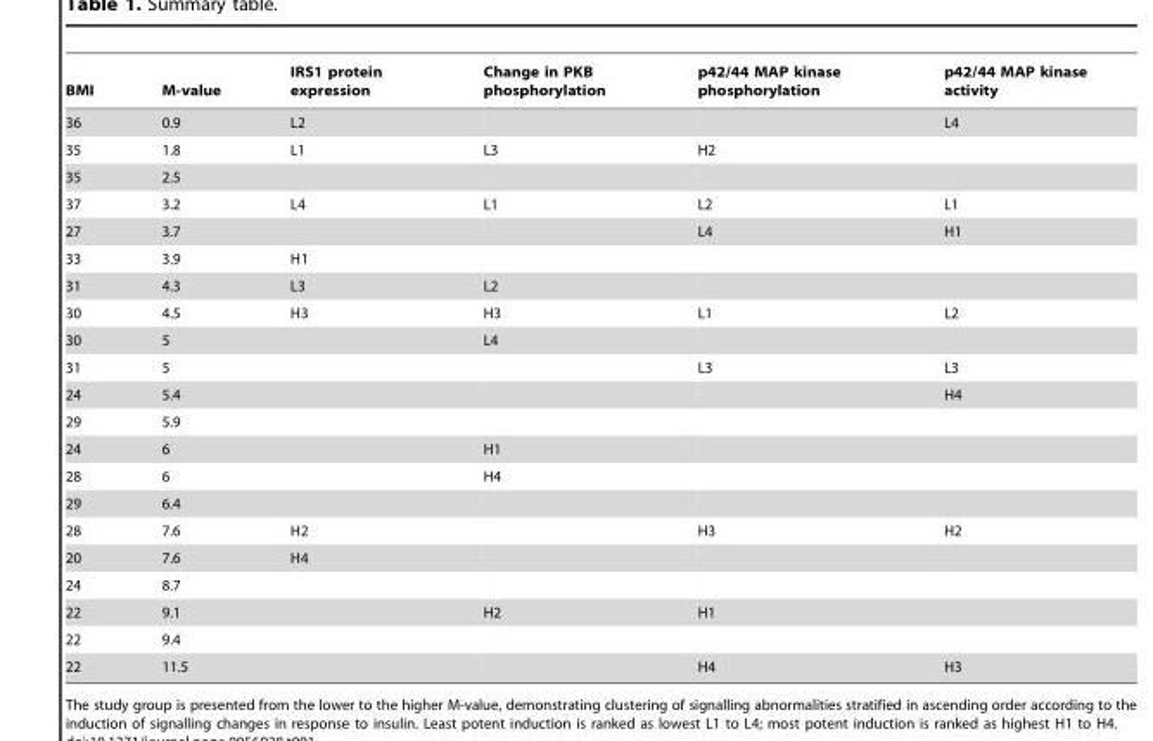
<table><thead><tr><td>BMI</td><td>M-value</td><td>IRS1 protein expression</td><td>Change in PKB phosphorylation</td><td>p42/44 MAP kinase phosphorylation</td><td>p42/44 MAP kinase activity</td></tr></thead><tbody><tr><td>36</td><td>0.9</td><td>L2</td><td></td><td></td><td>L4</td></tr><tr><td>35</td><td>1.8</td><td>L1</td><td>L3</td><td>H2</td><td></td></tr><tr><td>35</td><td>2.5</td><td></td><td></td><td></td><td></td></tr><tr><td>37</td><td>3.2</td><td>L4</td><td>L1</td><td>L2</td><td>L1</td></tr><tr><td>27</td><td>3.7</td><td></td><td></td><td>L4</td><td>H1</td></tr><tr><td>33</td><td>3.9</td><td>H1</td><td></td><td></td><td></td></tr><tr><td>31</td><td>4.3</td><td>L3</td><td>L2</td><td></td><td></td></tr><tr><td>30</td><td>4.5</td><td>H3</td><td>H3</td><td>L1</td><td>L2</td></tr><tr><td>30</td><td>5</td><td></td><td>L4</td><td></td><td></td></tr><tr><td>31</td><td>5</td><td></td><td></td><td>L3</td><td>L3</td></tr><tr><td>24</td><td>5.4</td><td></td><td></td><td></td><td>H4</td></tr><tr><td>29</td><td>5.9</td><td></td><td></td><td></td><td></td></tr><tr><td>24</td><td>6</td><td></td><td>H1</td><td></td><td></td></tr><tr><td>28</td><td>6</td><td></td><td>H4</td><td></td><td></td></tr><tr><td>29</td><td>6.4</td><td></td><td></td><td></td><td></td></tr><tr><td>28</td><td>7.6</td><td>H2</td><td></td><td>H3</td><td>H2</td></tr><tr><td>20</td><td>7.6</td><td>H4</td><td></td><td></td><td></td></tr><tr><td>24</td><td>8.7</td><td></td><td></td><td></td><td></td></tr><tr><td>22</td><td>9.1</td><td></td><td>H2</td><td>H1</td><td></td></tr><tr><td>22</td><td>9.4</td><td></td><td></td><td></td><td></td></tr><tr><td>22</td><td>11.5</td><td></td><td></td><td>H4</td><td>H3</td></tr></tbody></table>